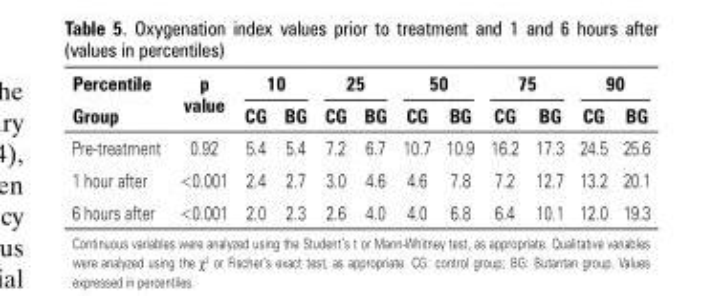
<table><thead><tr><td rowspan="2">Percentile Group</td><td rowspan="2">p value</td><td colspan="2">10</td><td colspan="2">25</td><td colspan="2">50</td><td colspan="2">75</td><td colspan="2">90</td></tr><tr><td>CG</td><td>BG</td><td>CG</td><td>BG</td><td>CG</td><td>BG</td><td>CG</td><td>BG</td><td>CG</td><td>BG</td></tr></thead><tbody><tr><td>Pre-treatment</td><td>0.92</td><td>5.4</td><td>5.4</td><td>7.2</td><td>6.7</td><td>10.7</td><td>10.9</td><td>16.2</td><td>17.3</td><td>24.5</td><td>25.6</td></tr><tr><td>1 hour after</td><td>&lt;0.001</td><td>2.4</td><td>2.7</td><td>3.0</td><td>4.6</td><td>4.6</td><td>7.8</td><td>7.2</td><td>12.7</td><td>13.2</td><td>20.1</td></tr><tr><td>6 hours after</td><td>&lt;0.001</td><td>2.0</td><td>2.3</td><td>2.6</td><td>4.0</td><td>4.0</td><td>6.8</td><td>6.4</td><td>10.1</td><td>12.0</td><td>19.3</td></tr></tbody></table>